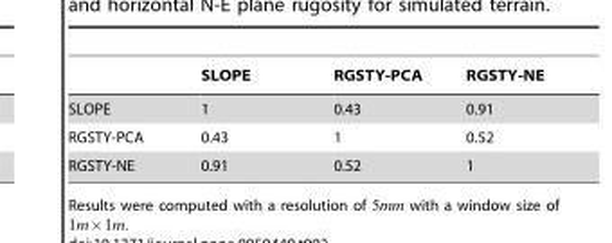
<table><thead><tr><td></td><td>SLOPE</td><td>RGSTY-PCA</td><td>RGSTY-NE</td></tr></thead><tbody><tr><td>SLOPE</td><td>1</td><td>0.43</td><td>0.91</td></tr><tr><td>RGSTY-PCA</td><td>0.43</td><td>1</td><td>0.52</td></tr><tr><td>RGSTY-NE</td><td>0.91</td><td>0.52</td><td>1</td></tr></tbody></table>